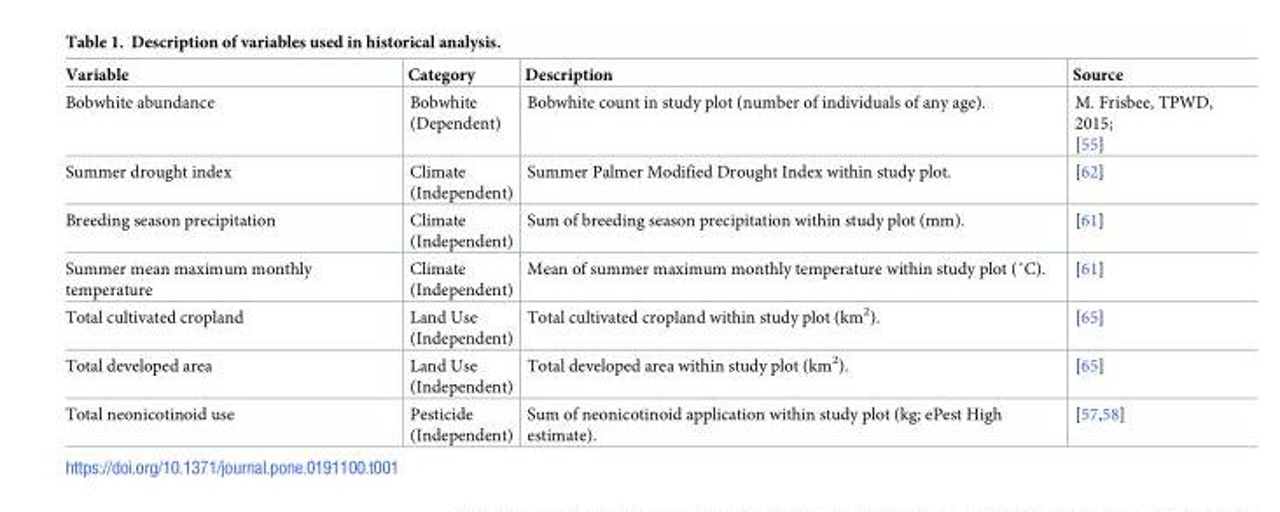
<table><thead><tr><td>Variable</td><td>Category</td><td>Description</td><td>Source</td></tr></thead><tbody><tr><td>Bobwhite abundance</td><td>Bobwhite (Dependent)</td><td>Bobwhite count in study plot (number of individuals of any age).</td><td>M. Frisbee, TPWD, 2015; [55]</td></tr><tr><td>Summer drought index</td><td>Climate (Independent)</td><td>Summer Palmer Modified Drought Index within study plot.</td><td>[62]</td></tr><tr><td>Breeding season precipitation</td><td>Climate (Independent)</td><td>Sum of breeding season precipitation within study plot (mm).</td><td>[61]</td></tr><tr><td>Summer mean maximum monthly temperature</td><td>Climate (Independent)</td><td>Mean of summer maximum monthly temperature within study plot (˚C).</td><td>[61]</td></tr><tr><td>Total cultivated cropland</td><td>Land Use (Independent)</td><td>Total cultivated cropland within study plot (km<sup>2</sup>).</td><td>[65]</td></tr><tr><td>Total developed area</td><td>Land Use (Independent)</td><td>Total developed area within study plot (km<sup>2</sup>).</td><td>[65]</td></tr><tr><td>Total neonicotinoid use</td><td>Pesticide (Independent)</td><td>Sum of neonicotinoid application within study plot (kg; ePest High estimate).</td><td>[57,58]</td></tr></tbody></table>